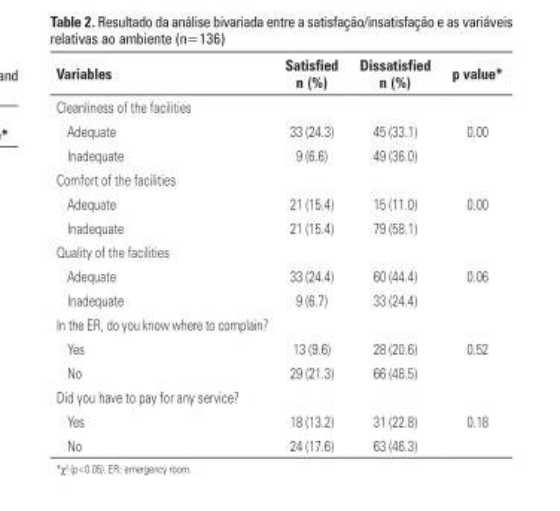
<table><thead><tr><td>Variables</td><td>satisfied n (%)</td><td>dissatisfied n (%)</td><td>p value*</td></tr></thead><tbody><tr><td colspan="3">Cleanliness of the facilities</td><td rowspan="3">0.00</td></tr><tr><td>Adequate</td><td>33 (24.3)</td><td>45 (33.1)</td></tr><tr><td>Inadequate</td><td>9 (6.6)</td><td>49 (36.0)</td></tr><tr><td colspan="3">Comfort of the facilities</td><td rowspan="3">0.00</td></tr><tr><td>Adequate</td><td>21 (15.4)</td><td>15 (11.0)</td></tr><tr><td>Inadequate</td><td>21 (15.4)</td><td>79 (58.1)</td></tr><tr><td colspan="3">Quality of the facilities</td><td rowspan="3">0.06</td></tr><tr><td>Adequate</td><td>33 (24.4)</td><td>60 (44.4)</td></tr><tr><td>Inadequate</td><td>9 (6.7)</td><td>33 (24.4)</td></tr><tr><td colspan="3">In the ER, do you know where to complain?</td><td rowspan="3">0.52</td></tr><tr><td>Yes</td><td>13 (9.6)</td><td>28 (20.6)</td></tr><tr><td>No</td><td>29 (21.3)</td><td>66 (48.5)</td></tr><tr><td colspan="3">Did you have to pay for any service?</td><td rowspan="3">0.18</td></tr><tr><td>Yes</td><td>18 (13.2)</td><td>31 (22.8)</td></tr><tr><td>No</td><td>24 (17.6)</td><td>63 (46.3)</td></tr></tbody></table>